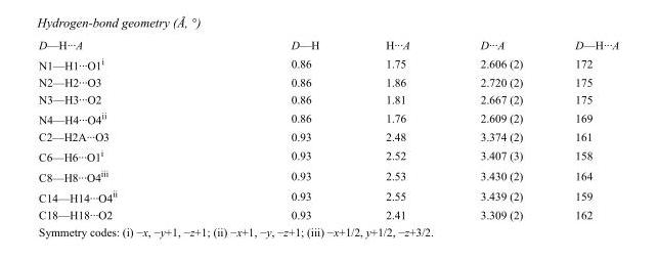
<table><tbody><tr><td>D—H···A</td><td>D—H</td><td>H···A</td><td>D···A</td><td>D—H···A</td></tr><tr><td>N1—H1···O1<sup>i</sup></td><td>0.86</td><td>1.75</td><td>2.606 (2)</td><td>172</td></tr><tr><td>N2—H2···O3</td><td>0.86</td><td>1.86</td><td>2.720 (2)</td><td>175</td></tr><tr><td>N3—H3···O2</td><td>0.86</td><td>1.81</td><td>2.667 (2)</td><td>175</td></tr><tr><td>N4—H4···O4<sup>ii</sup></td><td>0.86</td><td>1.76</td><td>2.609 (2)</td><td>169</td></tr><tr><td>C2—H2A···O3</td><td>0.93</td><td>2.48</td><td>3.374 (2)</td><td>161</td></tr><tr><td>C6—H6···O1<sup>i</sup></td><td>0.93</td><td>2.52</td><td>3.407 (3)</td><td>158</td></tr><tr><td>C8—H8···O4<sup>iii</sup></td><td>0.93</td><td>2.53</td><td>3.430 (2)</td><td>164</td></tr><tr><td>C14—H14···O4<sup>ii</sup></td><td>0.93</td><td>2.55</td><td>3.439 (2)</td><td>159</td></tr><tr><td>C18—H18···O2</td><td>0.93</td><td>2.41</td><td>3.309 (2)</td><td>162</td></tr></tbody></table>